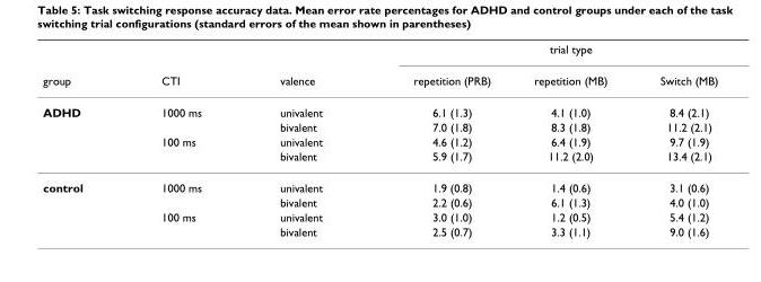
<table><thead><tr><td rowspan="2">group</td><td rowspan="2">CTI</td><td rowspan="2">valence</td><td colspan="3">trial type</td></tr><tr><td>repetition (PRB)</td><td>repetition (MB)</td><td>Switch (MB)</td></tr></thead><tbody><tr><td rowspan="4">ADHD</td><td>1000 ms</td><td>univalent</td><td>6.1 (1.3)</td><td>4.1 (1.0)</td><td>8.4 (2.1)</td></tr><tr><td></td><td>bivalent</td><td>7.0 (1.8)</td><td>8.3 (1.8)</td><td>11.2 (2.1)</td></tr><tr><td>100 ms</td><td>univalent</td><td>4.6 (1.2)</td><td>6.4 (1.9)</td><td>9.7 (1.9)</td></tr><tr><td></td><td>bivalent</td><td>5.9 (1.7)</td><td>11.2 (2.0)</td><td>13.4 (2.1)</td></tr><tr><td rowspan="4">control</td><td>1000 ms</td><td>univalent</td><td>1.9 (0.8)</td><td>1.4 (0.6)</td><td>3.1 (0.6)</td></tr><tr><td></td><td>bivalent</td><td>2.2 (0.6)</td><td>6.1 (1.3)</td><td>4.0 (1.0)</td></tr><tr><td>100 ms</td><td>univalent</td><td>3.0 (1.0)</td><td>1.2 (0.5)</td><td>5.4 (1.2)</td></tr><tr><td></td><td>bivalent</td><td>2.5 (0.7)</td><td>3.3 (1.1)</td><td>9.0 (1.6)</td></tr></tbody></table>